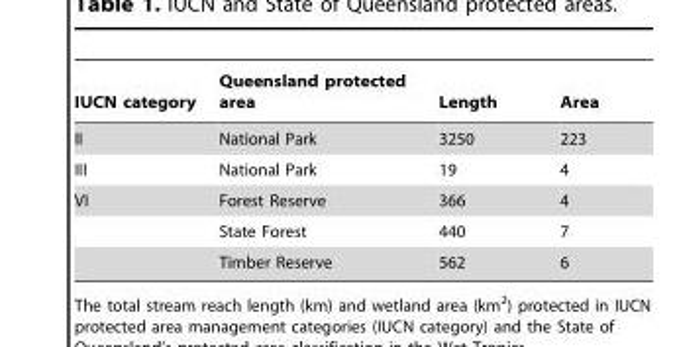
<table><thead><tr><td>IUCN category</td><td>Queensland protected area</td><td>Length</td><td>Area</td></tr></thead><tbody><tr><td>II</td><td>National Park</td><td>3250</td><td>223</td></tr><tr><td>III</td><td>National Park</td><td>19</td><td>4</td></tr><tr><td rowspan="3">VI</td><td>Forest Reserve</td><td>366</td><td>4</td></tr><tr><td>State Forest</td><td>440</td><td>7</td></tr><tr><td>Timber Reserve</td><td>562</td><td>6</td></tr></tbody></table>